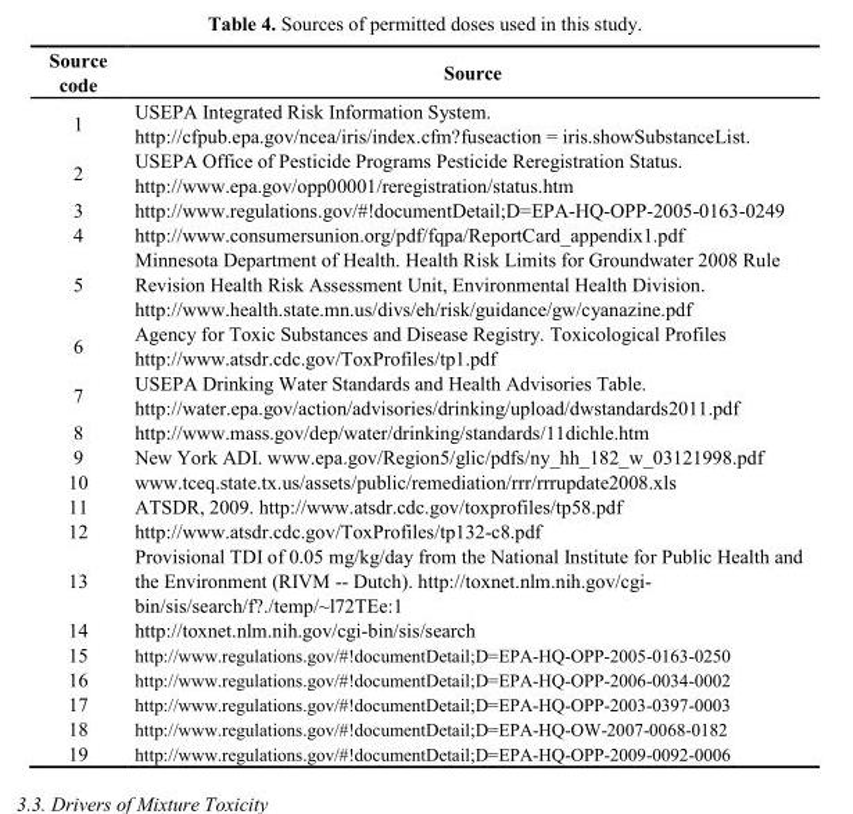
<table><thead><tr><td>Source code</td><td>Source</td></tr></thead><tbody><tr><td rowspan="2">1</td><td>USEPA Integrated Risk Information System.</td></tr><tr><td>http://cfpub.epa.gov/ncea/iris/index.cfm?fuseaction = iris.showSubstanceList.</td></tr><tr><td rowspan="2">2</td><td>USEPA Office of Pesticide Programs Pesticide Reregistration Status.</td></tr><tr><td>http://www.epa.gov/opp00001/reregistration/status.htm</td></tr><tr><td>3</td><td>http://www.regulations.gov/#!documentDetail;D=EPA-HQ-OPP-2005-0163-0249</td></tr><tr><td>4</td><td>http://www.consumersunion.org/pdf/fqpa/ReportCard_appendix1.pdf</td></tr><tr><td rowspan="2">5</td><td>Minnesota Department of Health. Health Risk Limits for Groundwater 2008 Rule Revision Health Risk Assessment Unit, Environmental Health Division.</td></tr><tr><td>http://www.health.state.mn.us/divs/eh/risk/guidance/gw/cyanazine.pdf</td></tr><tr><td rowspan="2">6</td><td>Agency for Toxic Substances and Disease Registry. Toxicological Profiles</td></tr><tr><td>http://www.atsdr.cdc.gov/ToxProfiles/tp1.pdf</td></tr><tr><td rowspan="2">7</td><td>USEPA Drinking Water Standards and Health Advisories Table.</td></tr><tr><td>http://water.epa.gov/action/advisories/drinking/upload/dwstandards2011.pdf</td></tr><tr><td>8</td><td>http://www.mass.gov/dep/water/drinking/standards/11dichle.htm</td></tr><tr><td>9</td><td>New York ADI. www.epa.gov/Region5/glic/pdfs/ny_hh_182_w_03121998.pdf</td></tr><tr><td>10</td><td>www.tceq.state.tx.us/assets/public/remediation/rrr/rrrupdate2008.xls</td></tr><tr><td>11</td><td>ATSDR, 2009. http://www.atsdr.cdc.gov/toxprofiles/tp58.pdf</td></tr><tr><td>12</td><td>http://www.atsdr.cdc.gov/ToxProfiles/tp132-c8.pdf</td></tr><tr><td>13</td><td>Provisional TDI of 0.05 mg/kg/day from the National Institute for Public Health and the Environment (RIVM -- Dutch). http://toxnet.nlm.nih.gov/cgi- bin/sis/search/f?./temp/~l72TEe:1</td></tr><tr><td>14</td><td>http://toxnet.nlm.nih.gov/cgi-bin/sis/search</td></tr><tr><td>15</td><td>http://www.regulations.gov/#!documentDetail;D=EPA-HQ-OPP-2005-0163-0250</td></tr><tr><td>16</td><td>http://www.regulations.gov/#!documentDetail;D=EPA-HQ-OPP-2006-0034-0002</td></tr><tr><td>17</td><td>http://www.regulations.gov/#!documentDetail;D=EPA-HQ-OPP-2003-0397-0003</td></tr><tr><td>18</td><td>http://www.regulations.gov/#!documentDetail;D=EPA-HQ-OW-2007-0068-0182</td></tr><tr><td>19</td><td>http://www.regulations.gov/#!documentDetail;D=EPA-HQ-OPP-2009-0092-0006</td></tr></tbody></table>